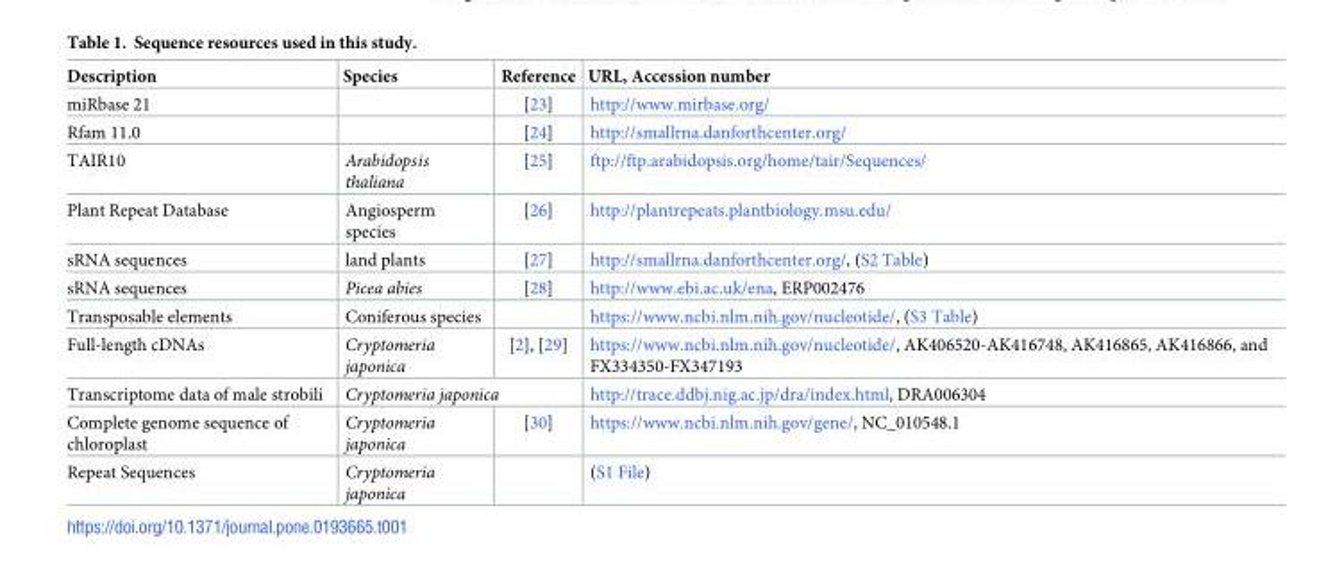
<table><thead><tr><td>Description</td><td>Species</td><td>Reference</td><td>URL, Accession number</td></tr></thead><tbody><tr><td>miRbase 21</td><td></td><td>[23]</td><td>http://www.mirbase.org/</td></tr><tr><td>Rfam 11.0</td><td></td><td>[24]</td><td>http://smallrna.danforthcenter.org/</td></tr><tr><td>TAIR10</td><td>Arabidopsis thaliana</td><td>[25]</td><td>ftp://ftp.arabidopsis.org/home/tair/Sequences/</td></tr><tr><td>Plant Repeat Database</td><td>Angiosperm species</td><td>[26]</td><td>http://plantrepeats.plantbiology.msu.edu/</td></tr><tr><td>sRNA sequences</td><td>land plants</td><td>[27]</td><td>http://smallrna.danforthcenter.org/, (S2 Table)</td></tr><tr><td>sRNA sequences</td><td>Picea abies</td><td>[28]</td><td>http://www.ebi.ac.uk/ena, ERP002476</td></tr><tr><td>Transposable elements</td><td>Coniferous species</td><td></td><td>https://www.ncbi.nlm.nih.gov/nucleotide/, (S3 Table)</td></tr><tr><td>Full-length cDNAs</td><td>Cryptomeria japonica</td><td>[2], [29]</td><td>https://www.ncbi.nlm.nih.gov/nucleotide/, AK406520-AK416748, AK416865, AK416866, and FX334350-FX347193</td></tr><tr><td>Transcriptome data of male strobili</td><td colspan="2">Cryptomeria japonica</td><td>http://trace.ddbj.nig.ac.jp/dra/index.html, DRA006304</td></tr><tr><td>Complete genome sequence of chloroplast</td><td>Cryptomeria japonica</td><td>[30]</td><td>https://www.ncbi.nlm.nih.gov/gene/, NC_010548.1</td></tr><tr><td>Repeat Sequences</td><td>Cryptomeria japonica</td><td></td><td>(S1 File)</td></tr></tbody></table>